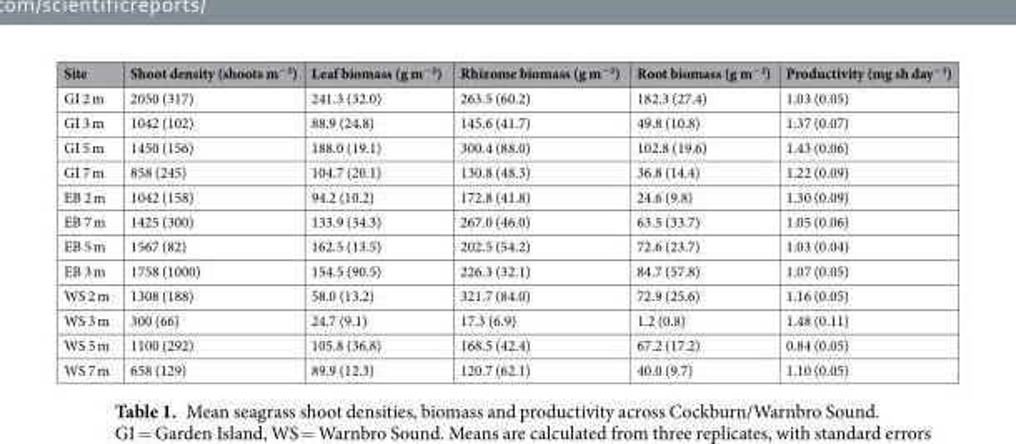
<table><thead><tr><td>Site</td><td>Shoot density (shoots m<sup>−2</sup>)</td><td>Leaf biomass (g m<sup>−2</sup>)</td><td>Rhizome biomass (g m<sup>−2</sup>)</td><td>Root biomass (g m<sup>−2</sup>)</td><td>Productivity (mg sh day<sup>−1</sup>)</td></tr></thead><tbody><tr><td>GI 2 m</td><td>2050 (317)</td><td>241.3 (32.0)</td><td>263.5 (60.2)</td><td>182.3 (27.4)</td><td>1.03 (0.05)</td></tr><tr><td>GI 3 m</td><td>1042 (102)</td><td>88.9 (24.8)</td><td>145.6 (41.7)</td><td>49.8 (10.8)</td><td>1.37 (0.07)</td></tr><tr><td>GI 5 m</td><td>1450 (156)</td><td>188.0 (19.1)</td><td>300.4 (88.0)</td><td>102.8 (19.6)</td><td>1.43 (0.06)</td></tr><tr><td>GI 7 m</td><td>858 (245)</td><td>104.7 (20.1)</td><td>130.8 (48.3)</td><td>36.8 (14.4)</td><td>1.22 (0.09)</td></tr><tr><td>EB 2 m</td><td>1042 (158)</td><td>94.2 (10.2)</td><td>172.8 (41.8)</td><td>24.6 (9.8)</td><td>1.30 (0.09)</td></tr><tr><td>EB 7 m</td><td>1425 (300)</td><td>133.9 (34.3)</td><td>267.0 (46.0)</td><td>63.5 (33.7)</td><td>1.05 (0.06)</td></tr><tr><td>EB 5 m</td><td>1567 (82)</td><td>162.5 (13.5)</td><td>202.5 (54.2)</td><td>72.6 (23.7)</td><td>1.03 (0.04)</td></tr><tr><td>EB 3 m</td><td>1758 (1000)</td><td>154.5 (90.5)</td><td>226.3 (32.1)</td><td>84.7 (57.8)</td><td>1.07 (0.05)</td></tr><tr><td>WS 2 m</td><td>1308 (188)</td><td>58.0 (13.2)</td><td>321.7 (84.0)</td><td>72.9 (25.6)</td><td>1.16 (0.05)</td></tr><tr><td>WS 3 m</td><td>300 (66)</td><td>24.7 (9.1)</td><td>17.3 (6.9)</td><td>1.2 (0.8)</td><td>1.48 (0.11)</td></tr><tr><td>WS 5 m</td><td>1100 (292)</td><td>105.8 (36.8)</td><td>168.5 (42.4)</td><td>67.2 (17.2)</td><td>0.84 (0.05)</td></tr><tr><td>WS 7 m</td><td>658 (129)</td><td>89.9 (12.3)</td><td>120.7 (62.1)</td><td>40.0 (9.7)</td><td>1.10 (0.05)</td></tr></tbody></table>